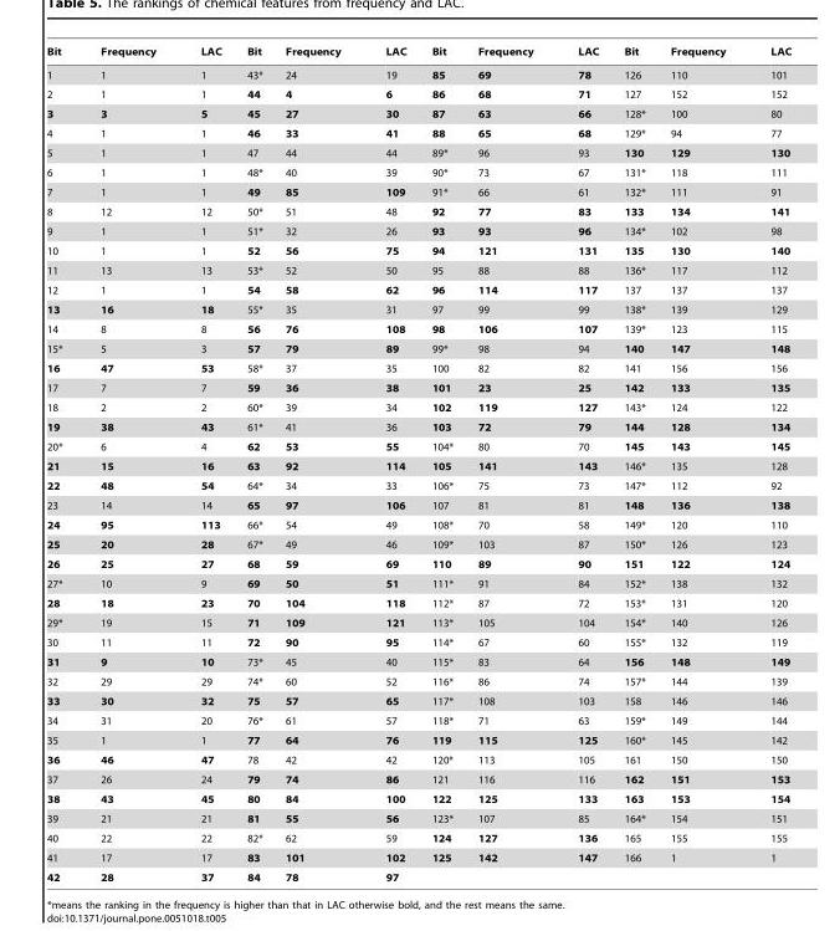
<table><thead><tr><td>Bit</td><td>Frequency</td><td>LAC</td><td>Bit</td><td>Frequency</td><td>LAC</td><td>Bit</td><td>Frequency</td><td>LAC</td><td>Bit</td><td>Frequency</td><td>LAC</td></tr></thead><tbody><tr><td>1</td><td>1</td><td>1</td><td>43*</td><td>24</td><td>19</td><td>85</td><td>69</td><td>78</td><td>126</td><td>110</td><td>101</td></tr><tr><td>2</td><td>1</td><td>1</td><td>44</td><td>4</td><td>6</td><td>86</td><td>68</td><td>71</td><td>127</td><td>152</td><td>152</td></tr><tr><td>3</td><td>3</td><td>5</td><td>45</td><td>27</td><td>30</td><td>87</td><td>63</td><td>66</td><td>128*</td><td>100</td><td>80</td></tr><tr><td>4</td><td>1</td><td>1</td><td>46</td><td>33</td><td>41</td><td>88</td><td>65</td><td>68</td><td>129*</td><td>94</td><td>77</td></tr><tr><td>5</td><td>1</td><td>1</td><td>47</td><td>44</td><td>44</td><td>89*</td><td>96</td><td>93</td><td>130</td><td>129</td><td>130</td></tr><tr><td>6</td><td>1</td><td>1</td><td>48*</td><td>40</td><td>39</td><td>90*</td><td>73</td><td>67</td><td>131*</td><td>118</td><td>111</td></tr><tr><td>7</td><td>1</td><td>1</td><td>49</td><td>85</td><td>109</td><td>91*</td><td>66</td><td>61</td><td>132*</td><td>111</td><td>91</td></tr><tr><td>8</td><td>12</td><td>12</td><td>50*</td><td>51</td><td>48</td><td>92</td><td>77</td><td>83</td><td>133</td><td>134</td><td>141</td></tr><tr><td>9</td><td>1</td><td>1</td><td>51*</td><td>32</td><td>26</td><td>93</td><td>93</td><td>96</td><td>134*</td><td>102</td><td>98</td></tr><tr><td>10</td><td>1</td><td>1</td><td>52</td><td>56</td><td>75</td><td>94</td><td>121</td><td>131</td><td>135</td><td>130</td><td>140</td></tr><tr><td>11</td><td>13</td><td>13</td><td>53*</td><td>52</td><td>50</td><td>95</td><td>88</td><td>88</td><td>136*</td><td>117</td><td>112</td></tr><tr><td>12</td><td>1</td><td>1</td><td>54</td><td>58</td><td>62</td><td>96</td><td>114</td><td>117</td><td>137</td><td>137</td><td>137</td></tr><tr><td>13</td><td>16</td><td>18</td><td>55*</td><td>35</td><td>31</td><td>97</td><td>99</td><td>99</td><td>138*</td><td>139</td><td>129</td></tr><tr><td>14</td><td>8</td><td>8</td><td>56</td><td>76</td><td>108</td><td>98</td><td>106</td><td>107</td><td>139*</td><td>123</td><td>115</td></tr><tr><td>15*</td><td>5</td><td>3</td><td>57</td><td>79</td><td>89</td><td>99*</td><td>98</td><td>94</td><td>140</td><td>147</td><td>148</td></tr><tr><td>16</td><td>47</td><td>53</td><td>58*</td><td>37</td><td>35</td><td>100</td><td>82</td><td>82</td><td>141</td><td>156</td><td>156</td></tr><tr><td>17</td><td>7</td><td>7</td><td>59</td><td>36</td><td>38</td><td>101</td><td>23</td><td>25</td><td>142</td><td>133</td><td>135</td></tr><tr><td>18</td><td>2</td><td>2</td><td>60*</td><td>39</td><td>34</td><td>102</td><td>119</td><td>127</td><td>143*</td><td>124</td><td>122</td></tr><tr><td>19</td><td>38</td><td>43</td><td>61*</td><td>41</td><td>36</td><td>103</td><td>72</td><td>79</td><td>144</td><td>128</td><td>134</td></tr><tr><td>20*</td><td>6</td><td>4</td><td>62</td><td>53</td><td>55</td><td>104*</td><td>80</td><td>70</td><td>145</td><td>143</td><td>145</td></tr><tr><td>21</td><td>15</td><td>16</td><td>63</td><td>92</td><td>114</td><td>105</td><td>141</td><td>143</td><td>146*</td><td>135</td><td>128</td></tr><tr><td>22</td><td>48</td><td>54</td><td>64*</td><td>34</td><td>33</td><td>106*</td><td>75</td><td>73</td><td>147*</td><td>112</td><td>92</td></tr><tr><td>23</td><td>14</td><td>14</td><td>65</td><td>97</td><td>106</td><td>107</td><td>81</td><td>81</td><td>148</td><td>136</td><td>138</td></tr><tr><td>24</td><td>95</td><td>113</td><td>66*</td><td>54</td><td>49</td><td>108*</td><td>70</td><td>58</td><td>149*</td><td>120</td><td>110</td></tr><tr><td>25</td><td>20</td><td>28</td><td>67*</td><td>49</td><td>46</td><td>109*</td><td>103</td><td>87</td><td>150*</td><td>126</td><td>123</td></tr><tr><td>26</td><td>25</td><td>27</td><td>68</td><td>59</td><td>69</td><td>110</td><td>89</td><td>90</td><td>151</td><td>122</td><td>124</td></tr><tr><td>27*</td><td>10</td><td>9</td><td>69</td><td>50</td><td>51</td><td>111*</td><td>91</td><td>84</td><td>152*</td><td>138</td><td>132</td></tr><tr><td>28</td><td>18</td><td>23</td><td>70</td><td>104</td><td>118</td><td>112*</td><td>87</td><td>72</td><td>153*</td><td>131</td><td>120</td></tr><tr><td>29*</td><td>19</td><td>15</td><td>71</td><td>109</td><td>121</td><td>113*</td><td>105</td><td>104</td><td>154*</td><td>140</td><td>126</td></tr><tr><td>30</td><td>11</td><td>11</td><td>72</td><td>90</td><td>95</td><td>114*</td><td>67</td><td>60</td><td>155*</td><td>132</td><td>119</td></tr><tr><td>31</td><td>9</td><td>10</td><td>73*</td><td>45</td><td>40</td><td>115*</td><td>83</td><td>64</td><td>156</td><td>148</td><td>149</td></tr><tr><td>32</td><td>29</td><td>29</td><td>74*</td><td>60</td><td>52</td><td>116*</td><td>86</td><td>74</td><td>157*</td><td>144</td><td>139</td></tr><tr><td>33</td><td>30</td><td>32</td><td>75</td><td>57</td><td>65</td><td>117*</td><td>108</td><td>103</td><td>158</td><td>146</td><td>146</td></tr><tr><td>34</td><td>31</td><td>20</td><td>76*</td><td>61</td><td>57</td><td>118*</td><td>71</td><td>63</td><td>159*</td><td>149</td><td>144</td></tr><tr><td>35</td><td>1</td><td>1</td><td>77</td><td>64</td><td>76</td><td>119</td><td>115</td><td>125</td><td>160*</td><td>145</td><td>142</td></tr><tr><td>36</td><td>46</td><td>47</td><td>78</td><td>42</td><td>42</td><td>120*</td><td>113</td><td>105</td><td>161</td><td>150</td><td>150</td></tr><tr><td>37</td><td>26</td><td>24</td><td>79</td><td>74</td><td>86</td><td>121</td><td>116</td><td>116</td><td>162</td><td>151</td><td>153</td></tr><tr><td>38</td><td>43</td><td>45</td><td>80</td><td>84</td><td>100</td><td>122</td><td>125</td><td>133</td><td>163</td><td>153</td><td>154</td></tr><tr><td>39</td><td>21</td><td>21</td><td>81</td><td>55</td><td>56</td><td>123*</td><td>107</td><td>85</td><td>164*</td><td>154</td><td>151</td></tr><tr><td>40</td><td>22</td><td>22</td><td>82*</td><td>62</td><td>59</td><td>124</td><td>127</td><td>136</td><td>165</td><td>155</td><td>155</td></tr><tr><td>41</td><td>17</td><td>17</td><td>83</td><td>101</td><td>102</td><td>125</td><td>142</td><td>147</td><td>166</td><td>1</td><td>1</td></tr><tr><td>42</td><td>28</td><td>37</td><td>84</td><td>78</td><td>97</td><td></td><td></td><td></td><td></td><td></td><td></td></tr></tbody></table>